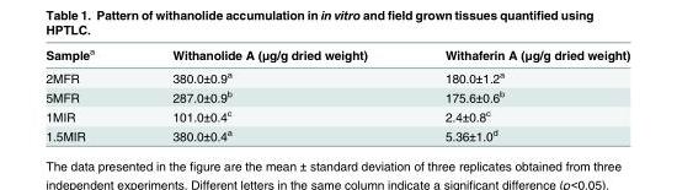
<table><thead><tr><td>Sample<sup>a</sup></td><td>Withanolide A (μg/g dried weight)</td><td>Withaferin A (μg/g dried weight)</td></tr></thead><tbody><tr><td>2MFR</td><td>380.0±0.9<sup>a</sup></td><td>180.0±1.2<sup>a</sup></td></tr><tr><td>5MFR</td><td>287.0±0.9<sup>b</sup></td><td>175.6±0.6<sup>b</sup></td></tr><tr><td>1MIR</td><td>101.0±0.4<sup>c</sup></td><td>2.4±0.8<sup>c</sup></td></tr><tr><td>1.5MIR</td><td>380.0±0.4<sup>a</sup></td><td>5.36±1.0<sup>d</sup></td></tr></tbody></table>